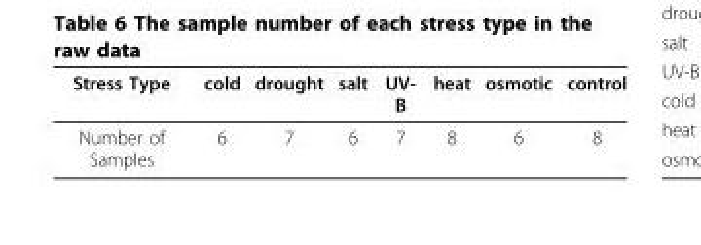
<table><thead><tr><td>Stress Type</td><td>cold</td><td>drought</td><td>salt</td><td>UV- B</td><td>heat</td><td>osmotic</td><td>control</td></tr></thead><tbody><tr><td>Number of Samples</td><td>6</td><td>7</td><td>6</td><td>7</td><td>8</td><td>6</td><td>8</td></tr></tbody></table>